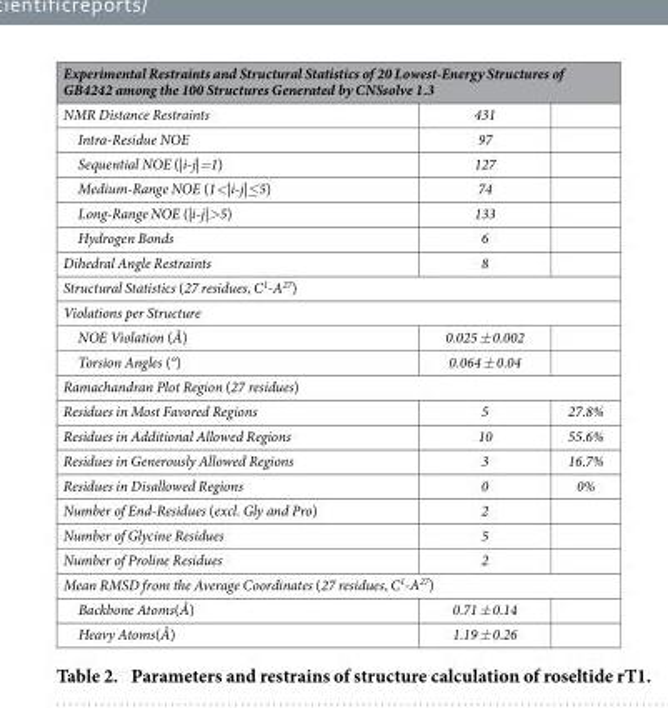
<table><thead><tr><td colspan="3">Experimental Restraints and Structural Statistics of 20 Lowest-Energy Structures of GB4242 among the 100 Structures Generated by CNSsolve 1.3</td></tr><tr><td>NMR Distance Restraints</td><td>431</td><td></td></tr></thead><tbody><tr><td>Intra-Residue NOE</td><td>97</td><td></td></tr><tr><td>Sequential NOE (|i-j|=1)</td><td>127</td><td></td></tr><tr><td>Medium-Range NOE (1&lt;|i-j|≤5)</td><td>74</td><td></td></tr><tr><td>Long-Range NOE (|i-j|&gt;5)</td><td>133</td><td></td></tr><tr><td>Hydrogen Bonds</td><td>6</td><td></td></tr><tr><td>Dihedral Angle Restraints</td><td>8</td><td></td></tr><tr><td colspan="3">Structural Statistics (27 residues, C<sup>1</sup>-A<sup>27</sup>)</td></tr><tr><td colspan="3">Violations per Structure</td></tr><tr><td>NOE Violation (Å)</td><td>0.025 ± 0.002</td><td></td></tr><tr><td>Torsion Angles (°)</td><td>0.064 ± 0.04</td><td></td></tr><tr><td colspan="3">Ramachandran Plot Region (27 residues)</td></tr><tr><td>Residues in Most Favored Regions</td><td>5</td><td>27.8%</td></tr><tr><td>Residues in Additional Allowed Regions</td><td>10</td><td>55.6%</td></tr><tr><td>Residues in Generously Allowed Regions</td><td>3</td><td>16.7%</td></tr><tr><td>Residues in Disallowed Regions</td><td>0</td><td>0%</td></tr><tr><td>Number of End-Residues (excl. Gly and Pro)</td><td>2</td><td></td></tr><tr><td>Number of Glycine Residues</td><td>5</td><td></td></tr><tr><td>Number of Proline Residues</td><td>2</td><td></td></tr><tr><td colspan="3">Mean RMSD from the Average Coordinates (27 residues, C<sup>1</sup>-A<sup>27</sup>)</td></tr><tr><td>Backbone Atoms(Å)</td><td>0.71 ± 0.14</td><td></td></tr><tr><td>Heavy Atoms(Å)</td><td>1.19 ± 0.26</td><td></td></tr></tbody></table>